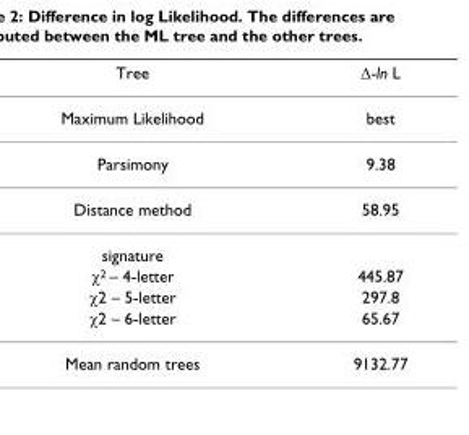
<table><thead><tr><td>Tree</td><td>∆-ln L</td></tr></thead><tbody><tr><td>Maximum Likelihood</td><td>best</td></tr><tr><td>Parsimony</td><td>9.38</td></tr><tr><td>Distance method</td><td>58.95</td></tr><tr><td colspan="2">signature</td></tr><tr><td>χ<sup>2</sup> – 4-letter</td><td>445.87</td></tr><tr><td>χ2 – 5-letter</td><td>297.8</td></tr><tr><td>χ2 – 6-letter</td><td>65.67</td></tr><tr><td>Mean random trees</td><td>9132.77</td></tr></tbody></table>